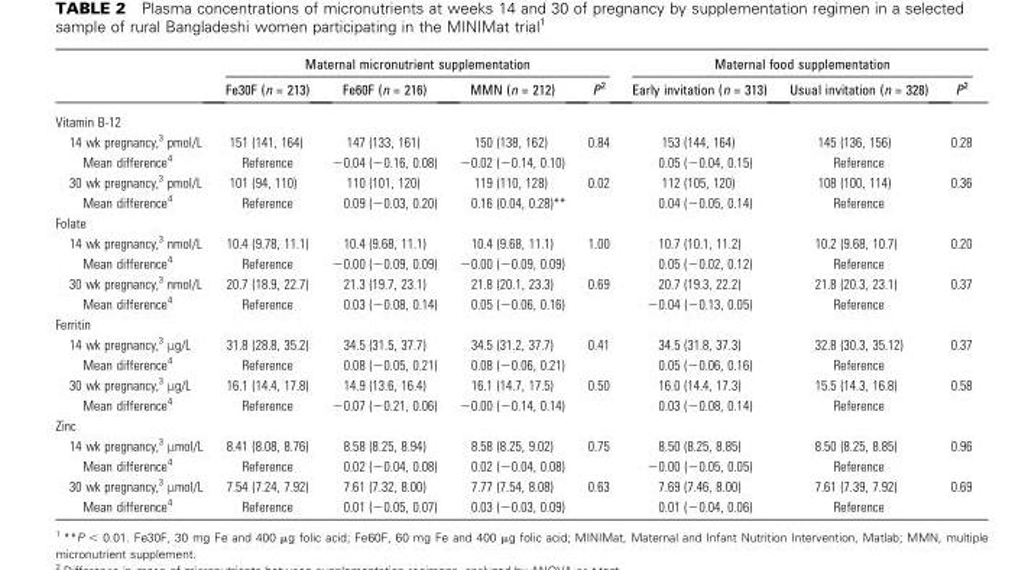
<table><thead><tr><td rowspan="2"></td><td colspan="4">Maternal micronutrient supplementation</td><td colspan="3">Maternal food supplementation</td></tr><tr><td>Fe30F (n = 213)</td><td>Fe60F (n = 216)</td><td>MMN (n = 212)</td><td>P<sup>2</sup></td><td>Early invitation (n = 313)</td><td>Usual invitation (n = 328)</td><td>P<sup>2</sup></td></tr></thead><tbody><tr><td colspan="8">Vitamin B-12</td></tr><tr><td>14 wk pregnancy,<sup>3</sup> pmol/L</td><td>151 (141, 164)</td><td>147 (133, 161)</td><td>150 (138, 162)</td><td>0.84</td><td>153 (144, 164)</td><td>145 (136, 156)</td><td>0.28</td></tr><tr><td>Mean difference<sup>4</sup></td><td>Reference</td><td>−0.04 (−0.16, 0.08)</td><td>−0.02 (−0.14, 0.10)</td><td></td><td>0.05 (−0.04, 0.15)</td><td>Reference</td><td></td></tr><tr><td>30 wk pregnancy,<sup>3</sup> pmol/L</td><td>101 (94, 110)</td><td>110 (101, 120)</td><td>119 (110, 128)</td><td>0.02</td><td>112 (105, 120)</td><td>108 (100, 114)</td><td>0.36</td></tr><tr><td>Mean difference<sup>4</sup></td><td>Reference</td><td>0.09 (−0.03, 0.20)</td><td>0.16 (0.04, 0.28)**</td><td></td><td>0.04 (−0.05, 0.14)</td><td>Reference</td><td></td></tr><tr><td colspan="8">Folate</td></tr><tr><td>14 wk pregnancy,<sup>3</sup> nmol/L</td><td>10.4 (9.78, 11.1)</td><td>10.4 (9.68, 11.1)</td><td>10.4 (9.68, 11.1)</td><td>1.00</td><td>10.7 (10.1, 11.2)</td><td>10.2 (9.68, 10.7)</td><td>0.20</td></tr><tr><td>Mean difference<sup>4</sup></td><td>Reference</td><td>−0.00 (−0.09, 0.09)</td><td>−0.00 (−0.09, 0.09)</td><td></td><td>0.05 (−0.02, 0.12)</td><td>Reference</td><td></td></tr><tr><td>30 wk pregnancy,<sup>3</sup> nmol/L</td><td>20.7 (18.9, 22.7)</td><td>21.3 (19.7, 23.1)</td><td>21.8 (20.1, 23.3)</td><td>0.69</td><td>20.7 (19.3, 22.2)</td><td>21.8 (20.3, 23.1)</td><td>0.37</td></tr><tr><td>Mean difference<sup>4</sup></td><td>Reference</td><td>0.03 (−0.08, 0.14)</td><td>0.05 (−0.06, 0.16)</td><td></td><td>−0.04 (−0.13, 0.05)</td><td>Reference</td><td></td></tr><tr><td colspan="8">Ferritin</td></tr><tr><td>14 wk pregnancy,<sup>3</sup> μg/L</td><td>31.8 (28.8, 35.2)</td><td>34.5 (31.5, 37.7)</td><td>34.5 (31.2, 37.7)</td><td>0.41</td><td>34.5 (31.8, 37.3)</td><td>32.8 (30.3, 35.12)</td><td>0.37</td></tr><tr><td>Mean difference<sup>4</sup></td><td>Reference</td><td>0.08 (−0.05, 0.21)</td><td>0.08 (−0.06, 0.21)</td><td></td><td>0.05 (−0.06, 0.16)</td><td>Reference</td><td></td></tr><tr><td>30 wk pregnancy,<sup>3</sup> μg/L</td><td>16.1 (14.4, 17.8)</td><td>14.9 (13.6, 16.4)</td><td>16.1 (14.7, 17.5)</td><td>0.50</td><td>16.0 (14.4, 17.3)</td><td>15.5 (14.3, 16.8)</td><td>0.58</td></tr><tr><td>Mean difference<sup>4</sup></td><td>Reference</td><td>−0.07 (−0.21, 0.06)</td><td>−0.00 (−0.14, 0.14)</td><td></td><td>0.03 (−0.08, 0.14)</td><td>Reference</td><td></td></tr><tr><td colspan="8">Zinc</td></tr><tr><td>14 wk pregnancy,<sup>3</sup> μmol/L</td><td>8.41 (8.08, 8.76)</td><td>8.58 (8.25, 8.94)</td><td>8.58 (8.25, 9.02)</td><td>0.75</td><td>8.50 (8.25, 8.85)</td><td>8.50 (8.25, 8.85)</td><td>0.96</td></tr><tr><td>Mean difference<sup>4</sup></td><td>Reference</td><td>0.02 (−0.04, 0.08)</td><td>0.02 (−0.04, 0.08)</td><td></td><td>−0.00 (−0.05, 0.05)</td><td>Reference</td><td></td></tr><tr><td>30 wk pregnancy,<sup>3</sup> μmol/L</td><td>7.54 (7.24, 7.92)</td><td>7.61 (7.32, 8.00)</td><td>7.77 (7.54, 8.08)</td><td>0.63</td><td>7.69 (7.46, 8.00)</td><td>7.61 (7.39, 7.92)</td><td>0.69</td></tr><tr><td>Mean difference<sup>4</sup></td><td>Reference</td><td>0.01 (−0.05, 0.07)</td><td>0.03 (−0.03, 0.09)</td><td></td><td>0.01 (−0.04, 0.06)</td><td>Reference</td><td></td></tr></tbody></table>